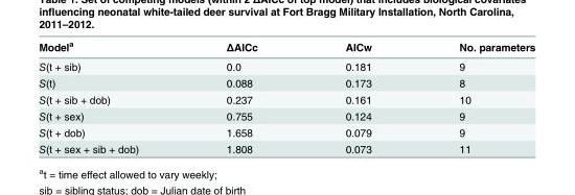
<table><thead><tr><td>Model<sup>a</sup></td><td>ΔAICc</td><td>AICw</td><td>No. parameters</td></tr></thead><tbody><tr><td>S(t + sib)</td><td>0.0</td><td>0.181</td><td>9</td></tr><tr><td>S(t)</td><td>0.088</td><td>0.173</td><td>8</td></tr><tr><td>S(t + sib + dob)</td><td>0.237</td><td>0.161</td><td>10</td></tr><tr><td>S(t + sex)</td><td>0.755</td><td>0.124</td><td>9</td></tr><tr><td>S(t + dob)</td><td>1.658</td><td>0.079</td><td>9</td></tr><tr><td>S(t + sex + sib + dob)</td><td>1.808</td><td>0.073</td><td>11</td></tr></tbody></table>